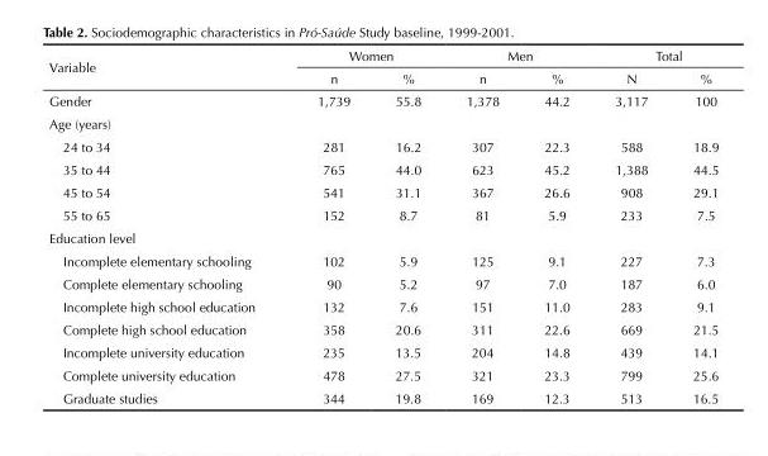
<table><thead><tr><td rowspan="2">Variable</td><td colspan="2">Women</td><td colspan="2">Men</td><td colspan="2">Total</td></tr><tr><td>n</td><td>%</td><td>n</td><td>%</td><td>N</td><td>%</td></tr></thead><tbody><tr><td>Gender</td><td>1,739</td><td>55.8</td><td>1,378</td><td>44.2</td><td>3,117</td><td>100</td></tr><tr><td colspan="7">Age (years)</td></tr><tr><td>24 to 34</td><td>281</td><td>16.2</td><td>307</td><td>22.3</td><td>588</td><td>18.9</td></tr><tr><td>35 to 44</td><td>765</td><td>44.0</td><td>623</td><td>45.2</td><td>1,388</td><td>44.5</td></tr><tr><td>45 to 54</td><td>541</td><td>31.1</td><td>367</td><td>26.6</td><td>908</td><td>29.1</td></tr><tr><td>55 to 65</td><td>152</td><td>8.7</td><td>81</td><td>5.9</td><td>233</td><td>7.5</td></tr><tr><td colspan="7">Education level</td></tr><tr><td>Incomplete elementary schooling</td><td>102</td><td>5.9</td><td>125</td><td>9.1</td><td>227</td><td>7.3</td></tr><tr><td>Complete elementary schooling</td><td>90</td><td>5.2</td><td>97</td><td>7.0</td><td>187</td><td>6.0</td></tr><tr><td>Incomplete high school education</td><td>132</td><td>7.6</td><td>151</td><td>11.0</td><td>283</td><td>9.1</td></tr><tr><td>Complete high school education</td><td>358</td><td>20.6</td><td>311</td><td>22.6</td><td>669</td><td>21.5</td></tr><tr><td>Incomplete university education</td><td>235</td><td>13.5</td><td>204</td><td>14.8</td><td>439</td><td>14.1</td></tr><tr><td>Complete university education</td><td>478</td><td>27.5</td><td>321</td><td>23.3</td><td>799</td><td>25.6</td></tr><tr><td>Graduate studies</td><td>344</td><td>19.8</td><td>169</td><td>12.3</td><td>513</td><td>16.5</td></tr></tbody></table>